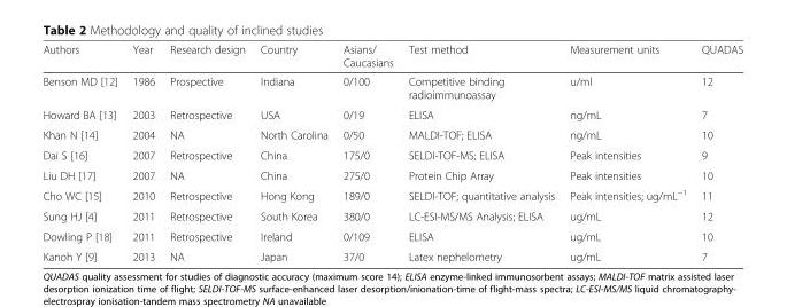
<table><thead><tr><td>Authors</td><td>Year</td><td>Research design</td><td>Country</td><td>Asians/ Caucasians</td><td>Test method</td><td>Measurement units</td><td>QUADAS</td></tr></thead><tbody><tr><td>Benson MD [12]</td><td>1986</td><td>Prospective</td><td>Indiana</td><td>0/100</td><td>Competitive binding radioimmunoassay</td><td>u/ml</td><td>12</td></tr><tr><td>Howard BA [13]</td><td>2003</td><td>Retrospective</td><td>USA</td><td>0/19</td><td>ELISA</td><td>ng/mL</td><td>7</td></tr><tr><td>Khan N [14]</td><td>2004</td><td>NA</td><td>North Carolina</td><td>0/50</td><td>MALDI-TOF; ELISA</td><td>ng/mL</td><td>10</td></tr><tr><td>Dai S [16]</td><td>2007</td><td>Retrospective</td><td>China</td><td>175/0</td><td>SELDI-TOF-MS; ELISA</td><td>Peak intensities</td><td>9</td></tr><tr><td>Liu DH [17]</td><td>2007</td><td>NA</td><td>China</td><td>275/0</td><td>Protein Chip Array</td><td>Peak intensities</td><td>10</td></tr><tr><td>Cho WC [15]</td><td>2010</td><td>Retrospective</td><td>Hong Kong</td><td>189/0</td><td>SELDI-TOF; quantitative analysis</td><td>Peak intensities; ug/mL<sup>−1</sup></td><td>11</td></tr><tr><td>Sung HJ [4]</td><td>2011</td><td>Retrospective</td><td>South Korea</td><td>380/0</td><td>LC-ESI-MS/MS Analysis; ELISA</td><td>ug/mL</td><td>12</td></tr><tr><td>Dowling P [18]</td><td>2011</td><td>Retrospective</td><td>Ireland</td><td>0/109</td><td>ELISA</td><td>ug/mL</td><td>10</td></tr><tr><td>Kanoh Y [9]</td><td>2013</td><td>NA</td><td>Japan</td><td>37/0</td><td>Latex nephelometry</td><td>ug/mL</td><td>7</td></tr></tbody></table>